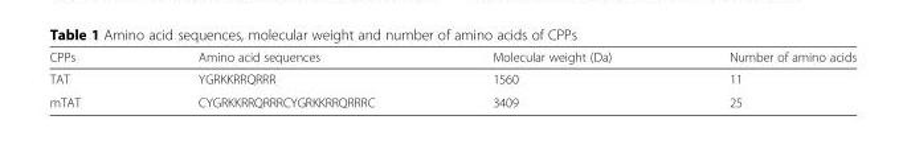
<table><thead><tr><td>CPPs</td><td>Amino acid sequences</td><td>Molecular weight (Da)</td><td>Number of amino acids</td></tr></thead><tbody><tr><td>TAT</td><td>YGRKKRRQRRR</td><td>1560</td><td>11</td></tr><tr><td>mTAT</td><td>CYGRKKRRQRRRCYGRKKRRQRRRC</td><td>3409</td><td>25</td></tr></tbody></table>